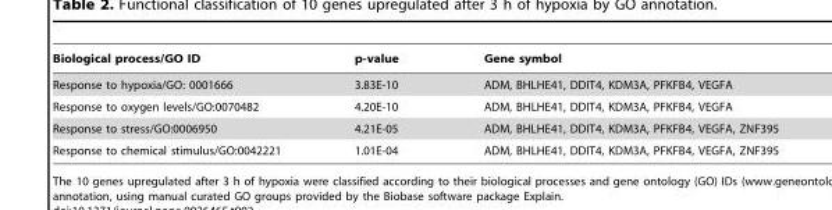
<table><thead><tr><td>Biological process/GO ID</td><td>p-value</td><td>Gene symbol</td></tr></thead><tbody><tr><td>Response to hypoxia/GO: 0001666</td><td>3.83E-10</td><td>ADM, BHLHE41, DDIT4, KDM3A, PFKFB4, VEGFA</td></tr><tr><td>Response to oxygen levels/GO:0070482</td><td>4.20E-10</td><td>ADM, BHLHE41, DDIT4, KDM3A, PFKFB4, VEGFA</td></tr><tr><td>Response to stress/GO:0006950</td><td>4.21E-05</td><td>ADM, BHLHE41, DDIT4, KDM3A, PFKFB4, VEGFA, ZNF395</td></tr><tr><td>Response to chemical stimulus/GO:0042221</td><td>1.01E-04</td><td>ADM, BHLHE41, DDIT4, KDM3A, PFKFB4, VEGFA, ZNF395</td></tr></tbody></table>